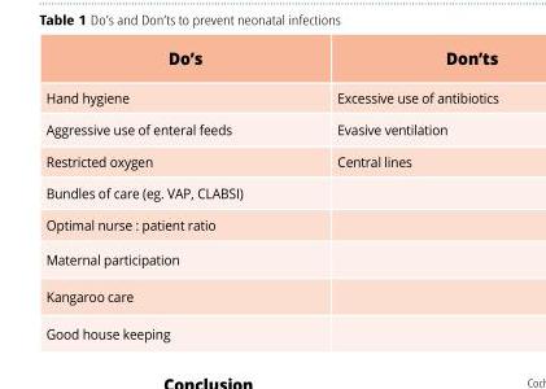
<table><thead><tr><td>Do’s</td><td>Don’ts</td></tr></thead><tbody><tr><td>Hand hygiene</td><td>Excessive use of antibiotics</td></tr><tr><td>Aggressive use of enteral feeds</td><td>Evasive ventilation</td></tr><tr><td>Restricted oxygen</td><td>Central lines</td></tr><tr><td colspan="2">Bundles of care (eg. VAP, CLABSI)</td></tr><tr><td colspan="2">Optimal nurse : patient ratio</td></tr><tr><td colspan="2">Maternal participation</td></tr><tr><td colspan="2">Kangaroo care</td></tr><tr><td>Good house keeping</td><td></td></tr></tbody></table>